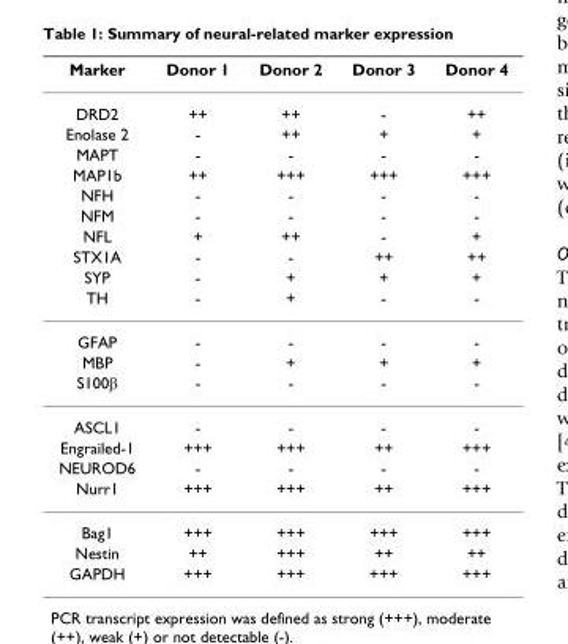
<table><thead><tr><td>Marker</td><td>Donor 1</td><td>Donor 2</td><td>Donor 3</td><td>Donor 4</td></tr></thead><tbody><tr><td>DRD2</td><td>++</td><td>++</td><td>-</td><td>++</td></tr><tr><td>Enolase 2</td><td>-</td><td>++</td><td>+</td><td>+</td></tr><tr><td>MAPT</td><td>-</td><td>-</td><td>-</td><td>-</td></tr><tr><td>MAP1b</td><td>++</td><td>+++</td><td>+++</td><td>+++</td></tr><tr><td>NFH</td><td>-</td><td>-</td><td>-</td><td>-</td></tr><tr><td>NFM</td><td>-</td><td>-</td><td>-</td><td>-</td></tr><tr><td>NFL</td><td>+</td><td>++</td><td>-</td><td>+</td></tr><tr><td>STX1A</td><td>-</td><td>-</td><td>++</td><td>++</td></tr><tr><td>SYP</td><td>-</td><td>+</td><td>+</td><td>+</td></tr><tr><td>TH</td><td>-</td><td>+</td><td>-</td><td>-</td></tr><tr><td>GFAP</td><td>-</td><td>-</td><td>-</td><td>-</td></tr><tr><td>MBP</td><td>-</td><td>+</td><td>+</td><td>+</td></tr><tr><td>S100β</td><td>-</td><td>-</td><td>-</td><td>-</td></tr><tr><td>ASCL1</td><td>-</td><td>-</td><td>-</td><td>-</td></tr><tr><td>Engrailed-1</td><td>+++</td><td>+++</td><td>++</td><td>+++</td></tr><tr><td>NEUROD6</td><td>-</td><td>-</td><td>-</td><td>-</td></tr><tr><td>Nurr1</td><td>+++</td><td>+++</td><td>++</td><td>+++</td></tr><tr><td>Bag1</td><td>+++</td><td>+++</td><td>+++</td><td>+++</td></tr><tr><td>Nestin</td><td>++</td><td>+++</td><td>++</td><td>++</td></tr><tr><td>GAPDH</td><td>+++</td><td>+++</td><td>+++</td><td>+++</td></tr></tbody></table>